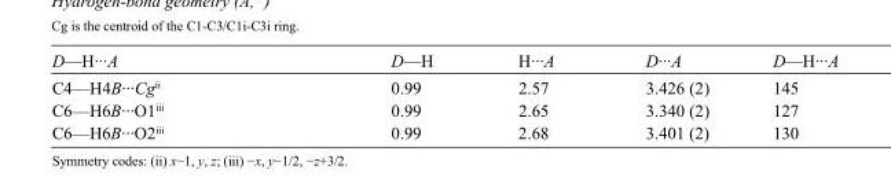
<table><tbody><tr><td>D—H···A</td><td>D—H</td><td>H···A</td><td>D···A</td><td>D—H···A</td></tr><tr><td>C4—H4B···Cg<sup>ii</sup></td><td>0.99</td><td>2.57</td><td>3.426 (2)</td><td>145</td></tr><tr><td>C6—H6B···O1<sup>iii</sup></td><td>0.99</td><td>2.65</td><td>3.340 (2)</td><td>127</td></tr><tr><td>C6—H6B···O2<sup>iii</sup></td><td>0.99</td><td>2.68</td><td>3.401 (2)</td><td>130</td></tr></tbody></table>